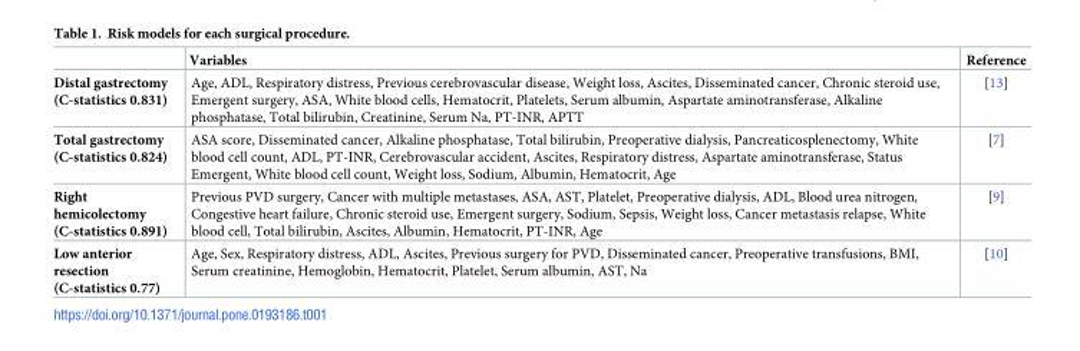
<table><thead><tr><td></td><td>Variables</td><td>Reference</td></tr></thead><tbody><tr><td>Distal gastrectomy (C-statistics 0.831)</td><td>Age, ADL, Respiratory distress, Previous cerebrovascular disease, Weight loss, Ascites, Disseminated cancer, Chronic steroid use, Emergent surgery, ASA, White blood cells, Hematocrit, Platelets, Serum albumin, Aspartate aminotransferase, Alkaline phosphatase, Total bilirubin, Creatinine, Serum Na, PT-INR, APTT</td><td>[13]</td></tr><tr><td>Total gastrectomy (C-statistics 0.824)</td><td>ASA score, Disseminated cancer, Alkaline phosphatase, Total bilirubin, Preoperative dialysis, Pancreaticosplenectomy, White blood cell count, ADL, PT-INR, Cerebrovascular accident, Ascites, Respiratory distress, Aspartate aminotransferase, Status Emergent, White blood cell count, Weight loss, Sodium, Albumin, Hematocrit, Age</td><td>[7]</td></tr><tr><td>Right hemicolectomy (C-statistics 0.891)</td><td>Previous PVD surgery, Cancer with multiple metastases, ASA, AST, Platelet, Preoperative dialysis, ADL, Blood urea nitrogen, Congestive heart failure, Chronic steroid use, Emergent surgery, Sodium, Sepsis, Weight loss, Cancer metastasis relapse, White blood cell, Total bilirubin, Ascites, Albumin, Hematocrit, PT-INR, Age</td><td>[9]</td></tr><tr><td>Low anterior resection (C-statistics 0.77)</td><td>Age, Sex, Respiratory distress, ADL, Ascites, Previous surgery for PVD, Disseminated cancer, Preoperative transfusions, BMI, Serum creatinine, Hemoglobin, Hematocrit, Platelet, Serum albumin, AST, Na</td><td>[10]</td></tr></tbody></table>